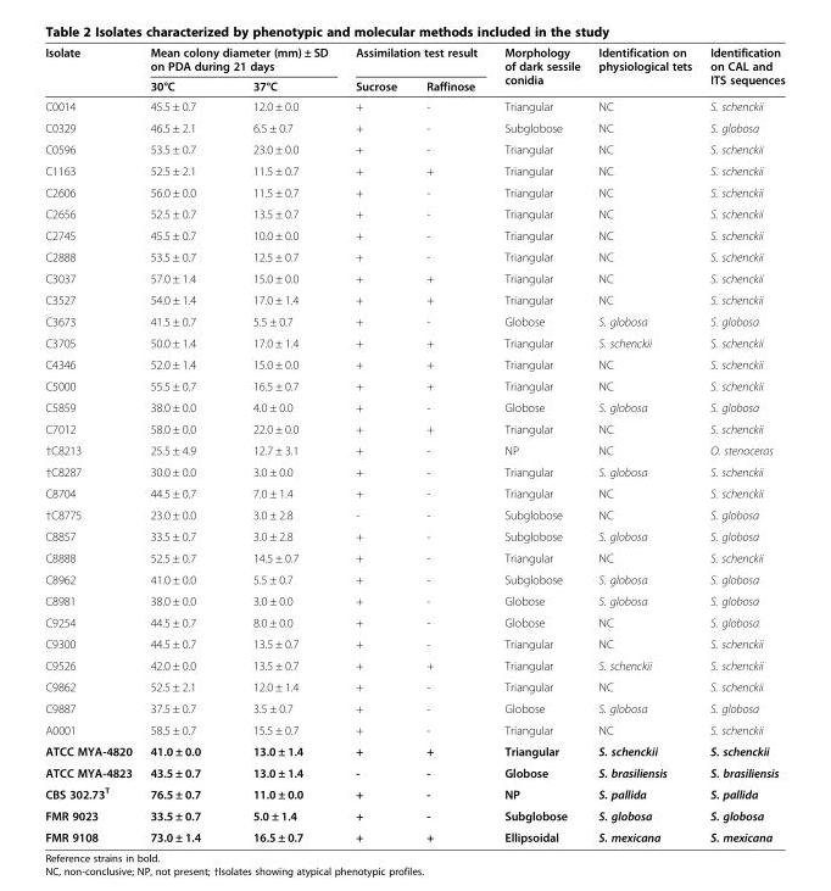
<table><thead><tr><td rowspan="2">Isolate</td><td colspan="2">Mean colony diameter (mm) ± SD on PDA during 21 days</td><td colspan="2">Assimilation test result</td><td rowspan="2">Morphology of dark sessile conidia</td><td rowspan="2">Identification on physiological tets</td><td rowspan="2">Identification on CAL and ITS sequences</td></tr><tr><td>30°C</td><td>37°C</td><td>Sucrose</td><td>Raffinose</td></tr></thead><tbody><tr><td>C0014</td><td>45.5 ± 0.7</td><td>12.0 ± 0.0</td><td>+</td><td>-</td><td>Triangular</td><td>NC</td><td>S. schenckii</td></tr><tr><td>C0329</td><td>46.5 ± 2.1</td><td>6.5 ± 0.7</td><td>+</td><td>-</td><td>Subglobose</td><td>NC</td><td>S. globosa</td></tr><tr><td>C0596</td><td>53.5 ± 0.7</td><td>23.0 ± 0.0</td><td>+</td><td>-</td><td>Triangular</td><td>NC</td><td>S. schenckii</td></tr><tr><td>C1163</td><td>52.5 ± 2.1</td><td>11.5 ± 0.7</td><td>+</td><td>+</td><td>Triangular</td><td>NC</td><td>S. schenckii</td></tr><tr><td>C2606</td><td>56.0 ± 0.0</td><td>11.5 ± 0.7</td><td>+</td><td>-</td><td>Triangular</td><td>NC</td><td>S. schenckii</td></tr><tr><td>C2656</td><td>52.5 ± 0.7</td><td>13.5 ± 0.7</td><td>+</td><td>-</td><td>Triangular</td><td>NC</td><td>S. schenckii</td></tr><tr><td>C2745</td><td>45.5 ± 0.7</td><td>10.0 ± 0.0</td><td>+</td><td>-</td><td>Triangular</td><td>NC</td><td>S. schenckii</td></tr><tr><td>C2888</td><td>53.5 ± 0.7</td><td>12.5 ± 0.7</td><td>+</td><td>-</td><td>Triangular</td><td>NC</td><td>S. schenckii</td></tr><tr><td>C3037</td><td>57.0 ± 1.4</td><td>15.0 ± 0.0</td><td>+</td><td>+</td><td>Triangular</td><td>NC</td><td>S. schenckii</td></tr><tr><td>C3527</td><td>54.0 ± 1.4</td><td>17.0 ± 1.4</td><td>+</td><td>+</td><td>Triangular</td><td>NC</td><td>S. schenckii</td></tr><tr><td>C3673</td><td>41.5 ± 0.7</td><td>5.5 ± 0.7</td><td>+</td><td>-</td><td>Globose</td><td>S. globosa</td><td>S. globosa</td></tr><tr><td>C3705</td><td>50.0 ± 1.4</td><td>17.0 ± 1.4</td><td>+</td><td>+</td><td>Triangular</td><td>S. schenckii</td><td>S. schenckii</td></tr><tr><td>C4346</td><td>52.0 ± 1.4</td><td>15.0 ± 0.0</td><td>+</td><td>+</td><td>Triangular</td><td>NC</td><td>S. schenckii</td></tr><tr><td>C5000</td><td>55.5 ± 0.7</td><td>16.5 ± 0.7</td><td>+</td><td>+</td><td>Triangular</td><td>NC</td><td>S. schenckii</td></tr><tr><td>C5859</td><td>38.0 ± 0.0</td><td>4.0 ± 0.0</td><td>+</td><td>-</td><td>Globose</td><td>S. globosa</td><td>S. globosa</td></tr><tr><td>C7012</td><td>58.0 ± 0.0</td><td>22.0 ± 0.0</td><td>+</td><td>+</td><td>Triangular</td><td>NC</td><td>S. schenckii</td></tr><tr><td>†C8213</td><td>25.5 ± 4.9</td><td>12.7 ± 3.1</td><td>+</td><td>-</td><td>NP</td><td>NC</td><td>O. stenoceras</td></tr><tr><td>†C8287</td><td>30.0 ± 0.0</td><td>3.0 ± 0.0</td><td>+</td><td>-</td><td>Triangular</td><td>S. globosa</td><td>S. schenckii</td></tr><tr><td>C8704</td><td>44.5 ± 0.7</td><td>7.0 ± 1.4</td><td>+</td><td>-</td><td>Triangular</td><td>NC</td><td>S. schenckii</td></tr><tr><td>†C8775</td><td>23.0 ± 0.0</td><td>3.0 ± 2.8</td><td>-</td><td>-</td><td>Subglobose</td><td>NC</td><td>S. globosa</td></tr><tr><td>C8857</td><td>33.5 ± 0.7</td><td>3.0 ± 2.8</td><td>+</td><td>-</td><td>Subglobose</td><td>S. globosa</td><td>S. globosa</td></tr><tr><td>C8888</td><td>52.5 ± 0.7</td><td>14.5 ± 0.7</td><td>+</td><td>-</td><td>Triangular</td><td>NC</td><td>S. schenckii</td></tr><tr><td>C8962</td><td>41.0 ± 0.0</td><td>5.5 ± 0.7</td><td>+</td><td>-</td><td>Subglobose</td><td>S. globosa</td><td>S. globosa</td></tr><tr><td>C8981</td><td>38.0 ± 0.0</td><td>3.0 ± 0.0</td><td>+</td><td>-</td><td>Globose</td><td>S. globosa</td><td>S. globosa</td></tr><tr><td>C9254</td><td>44.5 ± 0.7</td><td>8.0 ± 0.0</td><td>+</td><td>-</td><td>Globose</td><td>NC</td><td>S. globosa</td></tr><tr><td>C9300</td><td>44.5 ± 0.7</td><td>13.5 ± 0.7</td><td>+</td><td>-</td><td>Triangular</td><td>NC</td><td>S. schenckii</td></tr><tr><td>C9526</td><td>42.0 ± 0.0</td><td>13.5 ± 0.7</td><td>+</td><td>+</td><td>Triangular</td><td>S. schenckii</td><td>S. schenckii</td></tr><tr><td>C9862</td><td>52.5 ± 2.1</td><td>12.0 ± 1.4</td><td>+</td><td>-</td><td>Triangular</td><td>NC</td><td>S. schenckii</td></tr><tr><td>C9887</td><td>37.5 ± 0.7</td><td>3.5 ± 0.7</td><td>+</td><td>-</td><td>Globose</td><td>S. globosa</td><td>S. globosa</td></tr><tr><td>A0001</td><td>58.5 ± 0.7</td><td>15.5 ± 0.7</td><td>+</td><td>-</td><td>Triangular</td><td>NC</td><td>S. schenckii</td></tr><tr><td>ATCC MYA-4820</td><td>41.0 ± 0.0</td><td>13.0 ± 1.4</td><td>+</td><td>+</td><td>Triangular</td><td>S. schenckii</td><td>S. schenckii</td></tr><tr><td>ATCC MYA-4823</td><td>43.5 ± 0.7</td><td>13.0 ± 1.4</td><td>-</td><td>-</td><td>Globose</td><td>S. brasiliensis</td><td>S. brasiliensis</td></tr><tr><td>CBS 302.73<sup>T</sup></td><td>76.5 ± 0.7</td><td>11.0 ± 0.0</td><td>+</td><td>-</td><td>NP</td><td>S. pallida</td><td>S. pallida</td></tr><tr><td>FMR 9023</td><td>33.5 ± 0.7</td><td>5.0 ± 1.4</td><td>+</td><td>-</td><td>Subglobose</td><td>S. globosa</td><td>S. globosa</td></tr><tr><td>FMR 9108</td><td>73.0 ± 1.4</td><td>16.5 ± 0.7</td><td>+</td><td>+</td><td>Ellipsoidal</td><td>S. mexicana</td><td>S. mexicana</td></tr></tbody></table>